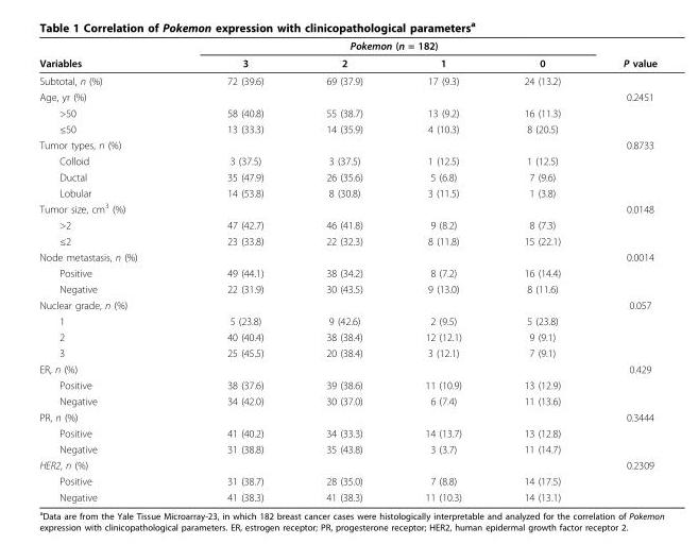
<table><thead><tr><td rowspan="2">Variables</td><td colspan="4">Pokemon (n = 182)</td><td rowspan="2">P value</td></tr><tr><td>3</td><td>2</td><td>1</td><td>0</td></tr></thead><tbody><tr><td>Subtotal, n (%)</td><td>72 (39.6)</td><td>69 (37.9)</td><td>17 (9.3)</td><td>24 (13.2)</td><td></td></tr><tr><td>Age, yr (%)</td><td></td><td></td><td></td><td></td><td>0.2451</td></tr><tr><td>&gt;50</td><td>58 (40.8)</td><td>55 (38.7)</td><td>13 (9.2)</td><td>16 (11.3)</td><td></td></tr><tr><td>≤50</td><td>13 (33.3)</td><td>14 (35.9)</td><td>4 (10.3)</td><td>8 (20.5)</td><td></td></tr><tr><td>Tumor types, n (%)</td><td></td><td></td><td></td><td></td><td>0.8733</td></tr><tr><td>Colloid</td><td>3 (37.5)</td><td>3 (37.5)</td><td>1 (12.5)</td><td>1 (12.5)</td><td></td></tr><tr><td>Ductal</td><td>35 (47.9)</td><td>26 (35.6)</td><td>5 (6.8)</td><td>7 (9.6)</td><td></td></tr><tr><td>Lobular</td><td>14 (53.8)</td><td>8 (30.8)</td><td>3 (11.5)</td><td>1 (3.8)</td><td></td></tr><tr><td>Tumor size, cm<sup>3</sup> (%)</td><td></td><td></td><td></td><td></td><td>0.0148</td></tr><tr><td>&gt;2</td><td>47 (42.7)</td><td>46 (41.8)</td><td>9 (8.2)</td><td>8 (7.3)</td><td></td></tr><tr><td>≤2</td><td>23 (33.8)</td><td>22 (32.3)</td><td>8 (11.8)</td><td>15 (22.1)</td><td></td></tr><tr><td>Node metastasis, n (%)</td><td></td><td></td><td></td><td></td><td>0.0014</td></tr><tr><td>Positive</td><td>49 (44.1)</td><td>38 (34.2)</td><td>8 (7.2)</td><td>16 (14.4)</td><td></td></tr><tr><td>Negative</td><td>22 (31.9)</td><td>30 (43.5)</td><td>9 (13.0)</td><td>8 (11.6)</td><td></td></tr><tr><td>Nuclear grade, n (%)</td><td></td><td></td><td></td><td></td><td>0.057</td></tr><tr><td>1</td><td>5 (23.8)</td><td>9 (42.6)</td><td>2 (9.5)</td><td>5 (23.8)</td><td></td></tr><tr><td>2</td><td>40 (40.4)</td><td>38 (38.4)</td><td>12 (12.1)</td><td>9 (9.1)</td><td></td></tr><tr><td>3</td><td>25 (45.5)</td><td>20 (38.4)</td><td>3 (12.1)</td><td>7 (9.1)</td><td></td></tr><tr><td>ER, n (%)</td><td></td><td></td><td></td><td></td><td>0.429</td></tr><tr><td>Positive</td><td>38 (37.6)</td><td>39 (38.6)</td><td>11 (10.9)</td><td>13 (12.9)</td><td></td></tr><tr><td>Negative</td><td>34 (42.0)</td><td>30 (37.0)</td><td>6 (7.4)</td><td>11 (13.6)</td><td></td></tr><tr><td>PR, n (%)</td><td></td><td></td><td></td><td></td><td>0.3444</td></tr><tr><td>Positive</td><td>41 (40.2)</td><td>34 (33.3)</td><td>14 (13.7)</td><td>13 (12.8)</td><td></td></tr><tr><td>Negative</td><td>31 (38.8)</td><td>35 (43.8)</td><td>3 (3.7)</td><td>11 (14.7)</td><td></td></tr><tr><td>HER2, n (%)</td><td></td><td></td><td></td><td></td><td>0.2309</td></tr><tr><td>Positive</td><td>31 (38.7)</td><td>28 (35.0)</td><td>7 (8.8)</td><td>14 (17.5)</td><td></td></tr><tr><td>Negative</td><td>41 (38.3)</td><td>41 (38.3)</td><td>11 (10.3)</td><td>14 (13.1)</td><td></td></tr></tbody></table>